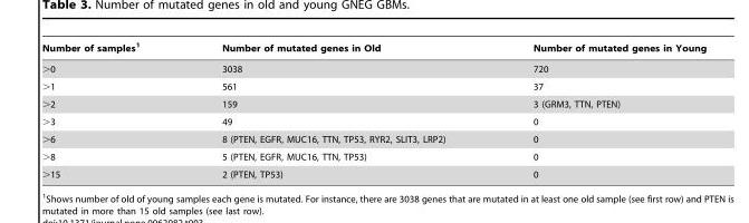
<table><thead><tr><td>Number of samples<sup>1</sup></td><td>Number of mutated genes in Old</td><td>Number of mutated genes in Young</td></tr></thead><tbody><tr><td>&gt;0</td><td>3038</td><td>720</td></tr><tr><td>&gt;1</td><td>561</td><td>37</td></tr><tr><td>&gt;2</td><td>159</td><td>3 (GRM3, TTN, PTEN)</td></tr><tr><td>&gt;3</td><td>49</td><td>0</td></tr><tr><td>&gt;6</td><td>8 (PTEN, EGFR, MUC16, TTN, TP53, RYR2, SLIT3, LRP2)</td><td>0</td></tr><tr><td>&gt;8</td><td>5 (PTEN, EGFR, MUC16, TTN, TP53)</td><td>0</td></tr><tr><td>&gt;15</td><td>2 (PTEN, TP53)</td><td>0</td></tr></tbody></table>